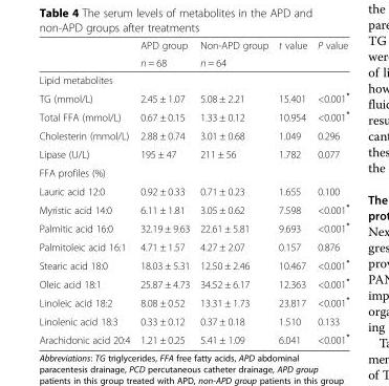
<table><thead><tr><td rowspan="2"></td><td rowspan="2">APD group n = 68</td><td rowspan="2">Non-APD group n = 64</td><td rowspan="2">t value</td><td rowspan="2">P value</td></tr><tr></tr></thead><tbody><tr><td colspan="5">Lipid metabolites</td></tr><tr><td>TG (mmol/L)</td><td>2.45 ± 1.07</td><td>5.08 ± 2.21</td><td>15.401</td><td>&lt;0.001*</td></tr><tr><td>Total FFA (mmol/L)</td><td>0.67 ± 0.15</td><td>1.33 ± 0.12</td><td>10.954</td><td>&lt;0.001*</td></tr><tr><td>Cholesterin (mmol/L)</td><td>2.88 ± 0.74</td><td>3.01 ± 0.68</td><td>1.049</td><td>0.296</td></tr><tr><td>Lipase (U/L)</td><td>195 ± 47</td><td>211 ± 56</td><td>1.782</td><td>0.077</td></tr><tr><td colspan="5">FFA profiles (%)</td></tr><tr><td>Lauric acid 12:0</td><td>0.92 ± 0.33</td><td>0.71 ± 0.23</td><td>1.655</td><td>0.100</td></tr><tr><td>Myristic acid 14:0</td><td>6.11 ± 1.81</td><td>3.05 ± 0.62</td><td>7.598</td><td>&lt;0.001*</td></tr><tr><td>Palmitic acid 16:0</td><td>32.19 ± 9.63</td><td>22.61 ± 5.81</td><td>9.693</td><td>&lt;0.001*</td></tr><tr><td>Palmitoleic acid 16:1</td><td>4.71 ± 1.57</td><td>4.27 ± 2.07</td><td>0.157</td><td>0.876</td></tr><tr><td>Stearic acid 18:0</td><td>18.03 ± 5.31</td><td>12.50 ± 2.46</td><td>10.467</td><td>&lt;0.001*</td></tr><tr><td>Oleic acid 18:1</td><td>25.87 ± 4.73</td><td>34.52 ± 6.17</td><td>12.363</td><td>&lt;0.001*</td></tr><tr><td>Linoleic acid 18:2</td><td>8.08 ± 0.52</td><td>13.31 ± 1.73</td><td>23.817</td><td>&lt;0.001*</td></tr><tr><td>Linolenic acid 18:3</td><td>0.33 ± 0.12</td><td>0.37 ± 0.18</td><td>1.510</td><td>0.133</td></tr><tr><td>Arachidonic acid 20:4</td><td>1.21 ± 0.25</td><td>5.41 ± 1.09</td><td>6.041</td><td>&lt;0.001*</td></tr></tbody></table>